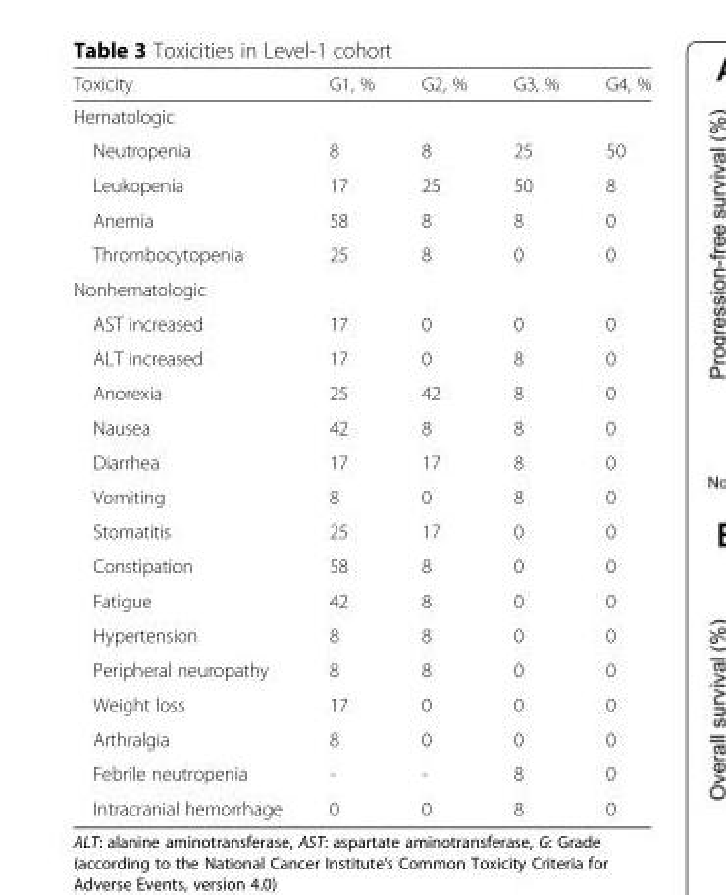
<table><thead><tr><td>Toxicity</td><td>G1, %</td><td>G2, %</td><td>G3, %</td><td>G4, %</td></tr></thead><tbody><tr><td colspan="5">Hematologic</td></tr><tr><td>Neutropenia</td><td>8</td><td>8</td><td>25</td><td>50</td></tr><tr><td>Leukopenia</td><td>17</td><td>25</td><td>50</td><td>8</td></tr><tr><td>Anemia</td><td>58</td><td>8</td><td>8</td><td>0</td></tr><tr><td>Thrombocytopenia</td><td>25</td><td>8</td><td>0</td><td>0</td></tr><tr><td colspan="5">Nonhematologic</td></tr><tr><td>AST increased</td><td>17</td><td>0</td><td>0</td><td>0</td></tr><tr><td>ALT increased</td><td>17</td><td>0</td><td>8</td><td>0</td></tr><tr><td>Anorexia</td><td>25</td><td>42</td><td>8</td><td>0</td></tr><tr><td>Nausea</td><td>42</td><td>8</td><td>8</td><td>0</td></tr><tr><td>Diarrhea</td><td>17</td><td>17</td><td>8</td><td>0</td></tr><tr><td>Vomiting</td><td>8</td><td>0</td><td>8</td><td>0</td></tr><tr><td>Stomatitis</td><td>25</td><td>17</td><td>0</td><td>0</td></tr><tr><td>Constipation</td><td>58</td><td>8</td><td>0</td><td>0</td></tr><tr><td>Fatigue</td><td>42</td><td>8</td><td>0</td><td>0</td></tr><tr><td>Hypertension</td><td>8</td><td>8</td><td>0</td><td>0</td></tr><tr><td>Peripheral neuropathy</td><td>8</td><td>8</td><td>0</td><td>0</td></tr><tr><td>Weight loss</td><td>17</td><td>0</td><td>0</td><td>0</td></tr><tr><td>Arthralgia</td><td>8</td><td>0</td><td>0</td><td>0</td></tr><tr><td>Febrile neutropenia</td><td>-</td><td>-</td><td>8</td><td>0</td></tr><tr><td>Intracranial hemorrhage</td><td>0</td><td>0</td><td>8</td><td>0</td></tr></tbody></table>